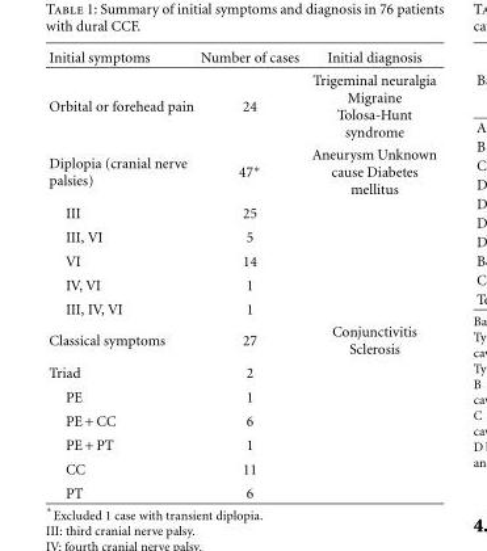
<table><thead><tr><td>Initial symptoms</td><td>Number of cases</td><td>Initial diagnosis</td></tr></thead><tbody><tr><td>Orbital or forehead pain</td><td>24</td><td>Trigeminal neuralgia Migraine Tolosa-Hunt syndrome</td></tr><tr><td>Diplopia (cranial nerve palsies)</td><td>47∗</td><td>Aneurysm Unknown cause Diabetes mellitus</td></tr><tr><td>III</td><td>25</td><td></td></tr><tr><td>III, VI</td><td>5</td><td></td></tr><tr><td>VI</td><td>14</td><td></td></tr><tr><td>IV, VI</td><td>1</td><td></td></tr><tr><td>III, IV, VI</td><td>1</td><td></td></tr><tr><td>Classical symptoms</td><td>27</td><td>Conjunctivitis Sclerosis</td></tr><tr><td>Triad</td><td>2</td><td></td></tr><tr><td>PE</td><td>1</td><td></td></tr><tr><td>PE + CC</td><td>6</td><td></td></tr><tr><td>PE + PT</td><td>1</td><td></td></tr><tr><td>CC</td><td>11</td><td></td></tr><tr><td>PT</td><td>6</td><td></td></tr></tbody></table>